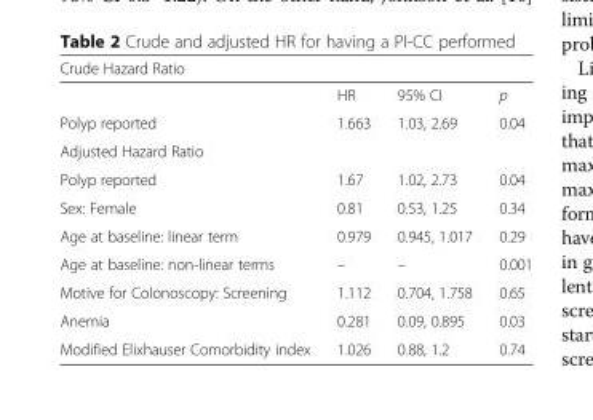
<table><thead><tr><td colspan="4">Crude Hazard Ratio</td></tr><tr><td></td><td>HR</td><td>95% CI</td><td>p</td></tr></thead><tbody><tr><td>Polyp reported</td><td>1.663</td><td>1.03, 2.69</td><td>0.04</td></tr><tr><td colspan="4">Adjusted Hazard Ratio</td></tr><tr><td>Polyp reported</td><td>1.67</td><td>1.02, 2.73</td><td>0.04</td></tr><tr><td>Sex: Female</td><td>0.81</td><td>0.53, 1.25</td><td>0.34</td></tr><tr><td>Age at baseline: linear term</td><td>0.979</td><td>0.945, 1.017</td><td>0.29</td></tr><tr><td>Age at baseline: non-linear terms</td><td>–</td><td>–</td><td>0.001</td></tr><tr><td>Motive for Colonoscopy: Screening</td><td>1.112</td><td>0.704, 1.758</td><td>0.65</td></tr><tr><td>Anemia</td><td>0.281</td><td>0.09, 0.895</td><td>0.03</td></tr><tr><td>Modified Elixhauser Comorbidity index</td><td>1.026</td><td>0.88, 1.2</td><td>0.74</td></tr></tbody></table>